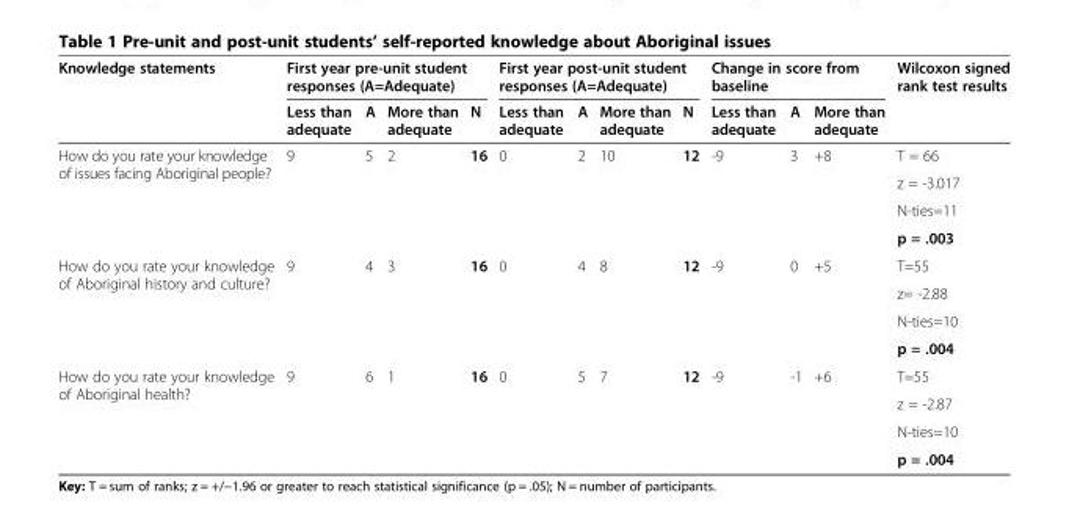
<table><thead><tr><td rowspan="2">Knowledge statements</td><td colspan="4">First year pre-unit student responses (A=Adequate)</td><td colspan="4">First year post-unit student responses (A=Adequate)</td><td colspan="3">Change in score from baseline</td><td rowspan="2">Wilcoxon signed rank test results</td></tr><tr><td>Less than adequate</td><td>A</td><td>More than adequate</td><td>N</td><td>Less than adequate</td><td>A</td><td>More than adequate</td><td>N</td><td>Less than adequate</td><td>A</td><td>More than adequate</td></tr></thead><tbody><tr><td rowspan="4">How do you rate your knowledge of issues facing Aboriginal people?</td><td rowspan="4">9</td><td rowspan="4">5</td><td rowspan="4">2</td><td rowspan="4">16</td><td rowspan="4">0</td><td rowspan="4">2</td><td rowspan="4">10</td><td rowspan="4">12</td><td rowspan="4">-9</td><td rowspan="4">3</td><td rowspan="4">+8</td><td>T = 66</td></tr><tr><td>z = -3.017</td></tr><tr><td>N-ties=11</td></tr><tr><td>p = .003</td></tr><tr><td rowspan="4">How do you rate your knowledge of Aboriginal history and culture?</td><td rowspan="4">9</td><td rowspan="4">4</td><td rowspan="4">3</td><td rowspan="4">16</td><td rowspan="4">0</td><td rowspan="4">4</td><td rowspan="4">8</td><td rowspan="4">12</td><td rowspan="4">-9</td><td rowspan="4">0</td><td rowspan="4">+5</td><td>T=55</td></tr><tr><td>z= -2.88</td></tr><tr><td>N-ties=10</td></tr><tr><td>p = .004</td></tr><tr><td rowspan="4">How do you rate your knowledge of Aboriginal health?</td><td rowspan="4">9</td><td rowspan="4">6</td><td rowspan="4">1</td><td rowspan="4">16</td><td rowspan="4">0</td><td rowspan="4">5</td><td rowspan="4">7</td><td rowspan="4">12</td><td rowspan="4">-9</td><td rowspan="4">-1</td><td rowspan="4">+6</td><td>T=55</td></tr><tr><td>z = -2.87</td></tr><tr><td>N-ties=10</td></tr><tr><td>p = .004</td></tr></tbody></table>